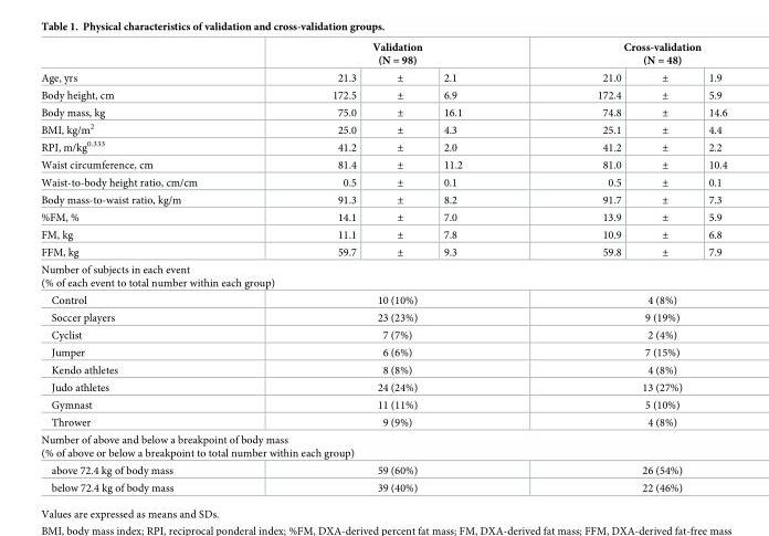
<table><thead><tr><td rowspan="2">Age, yrs</td><td colspan="3">Validation (N = 98)</td><td colspan="3">Cross-validation (N = 48)</td></tr><tr><td>21.3</td><td>±</td><td>2.1</td><td>21.0</td><td>±</td><td>1.9</td></tr></thead><tbody><tr><td>Body height, cm</td><td>172.5</td><td>±</td><td>6.9</td><td>172.4</td><td>±</td><td>5.9</td></tr><tr><td>Body mass, kg</td><td>75.0</td><td>±</td><td>16.1</td><td>74.8</td><td>±</td><td>14.6</td></tr><tr><td>BMI, kg/m<sup>2</sup></td><td>25.0</td><td>±</td><td>4.3</td><td>25.1</td><td>±</td><td>4.4</td></tr><tr><td>RPI, m/kg<sup>0.333</sup></td><td>41.2</td><td>±</td><td>2.0</td><td>41.2</td><td>±</td><td>2.2</td></tr><tr><td>Waist circumference, cm</td><td>81.4</td><td>±</td><td>11.2</td><td>81.0</td><td>±</td><td>10.4</td></tr><tr><td>Waist-to-body height ratio, cm/cm</td><td>0.5</td><td>±</td><td>0.1</td><td>0.5</td><td>±</td><td>0.1</td></tr><tr><td>Body mass-to-waist ratio, kg/m</td><td>91.3</td><td>±</td><td>8.2</td><td>91.7</td><td>±</td><td>7.3</td></tr><tr><td>%FM, %</td><td>14.1</td><td>±</td><td>7.0</td><td>13.9</td><td>±</td><td>5.9</td></tr><tr><td>FM, kg</td><td>11.1</td><td>±</td><td>7.8</td><td>10.9</td><td>±</td><td>6.8</td></tr><tr><td>FFM, kg</td><td>59.7</td><td>±</td><td>9.3</td><td>59.8</td><td>±</td><td>7.9</td></tr><tr><td colspan="7">Number of subjects in each event (% of each event to total number within each group)</td></tr><tr><td>Control</td><td colspan="3">10 (10%)</td><td colspan="3">4 (8%)</td></tr><tr><td>Soccer players</td><td colspan="3">23 (23%)</td><td colspan="3">9 (19%)</td></tr><tr><td>Cyclist</td><td colspan="3">7 (7%)</td><td colspan="3">2 (4%)</td></tr><tr><td>Jumper</td><td colspan="3">6 (6%)</td><td colspan="3">7 (15%)</td></tr><tr><td>Kendo athletes</td><td colspan="3">8 (8%)</td><td colspan="3">4 (8%)</td></tr><tr><td>Judo athletes</td><td colspan="3">24 (24%)</td><td colspan="3">13 (27%)</td></tr><tr><td>Gymnast</td><td colspan="3">11 (11%)</td><td colspan="3">5 (10%)</td></tr><tr><td>Thrower</td><td colspan="3">9 (9%)</td><td colspan="3">4 (8%)</td></tr><tr><td colspan="7">Number of above and below a breakpoint of body mass (% of above or below a breakpoint to total number within each group)</td></tr><tr><td>above 72.4 kg of body mass</td><td colspan="3">59 (60%)</td><td colspan="3">26 (54%)</td></tr><tr><td>below 72.4 kg of body mass</td><td colspan="3">39 (40%)</td><td colspan="3">22 (46%)</td></tr></tbody></table>